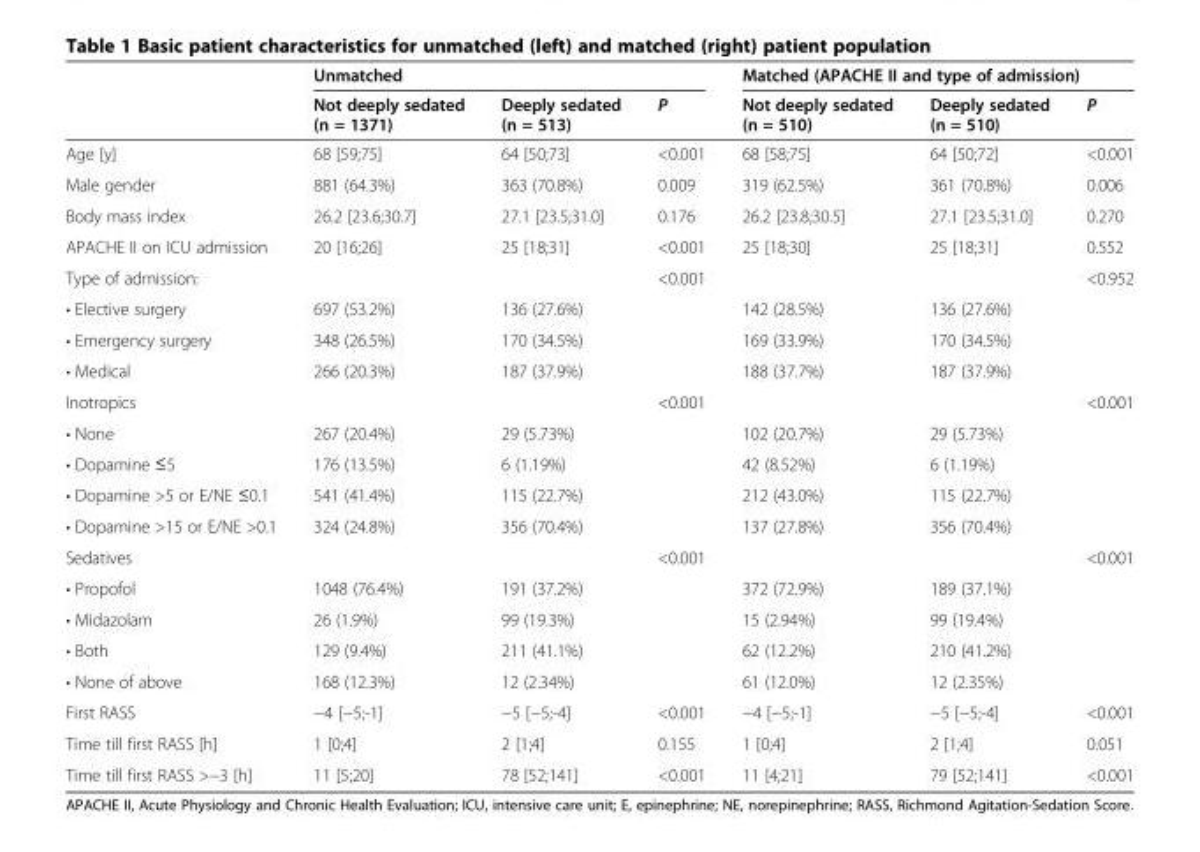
<table><thead><tr><td rowspan="2"></td><td colspan="3">Unmatched</td><td colspan="3">Matched (APACHE II and type of admission)</td></tr><tr><td>Not deeply sedated (n = 1371)</td><td>Deeply sedated (n = 513)</td><td>P</td><td>Not deeply sedated (n = 510)</td><td>Deeply sedated (n = 510)</td><td>P</td></tr></thead><tbody><tr><td>Age [y]</td><td>68 [59;75]</td><td>64 [50;73]</td><td>&lt;0.001</td><td>68 [58;75]</td><td>64 [50;72]</td><td>&lt;0.001</td></tr><tr><td>Male gender</td><td>881 (64.3%)</td><td>363 (70.8%)</td><td>0.009</td><td>319 (62.5%)</td><td>361 (70.8%)</td><td>0.006</td></tr><tr><td>Body mass index</td><td>26.2 [23.6;30.7]</td><td>27.1 [23.5;31.0]</td><td>0.176</td><td>26.2 [23.8;30.5]</td><td>27.1 [23.5;31.0]</td><td>0.270</td></tr><tr><td>APACHE II on ICU admission</td><td>20 [16;26]</td><td>25 [18;31]</td><td>&lt;0.001</td><td>25 [18;30]</td><td>25 [18;31]</td><td>0.552</td></tr><tr><td>Type of admission:</td><td></td><td></td><td>&lt;0.001</td><td></td><td></td><td>&lt;0.952</td></tr><tr><td>• Elective surgery</td><td>697 (53.2%)</td><td>136 (27.6%)</td><td></td><td>142 (28.5%)</td><td>136 (27.6%)</td><td></td></tr><tr><td>• Emergency surgery</td><td>348 (26.5%)</td><td>170 (34.5%)</td><td></td><td>169 (33.9%)</td><td>170 (34.5%)</td><td></td></tr><tr><td>• Medical</td><td>266 (20.3%)</td><td>187 (37.9%)</td><td></td><td>188 (37.7%)</td><td>187 (37.9%)</td><td></td></tr><tr><td>Inotropics</td><td></td><td></td><td>&lt;0.001</td><td></td><td></td><td>&lt;0.001</td></tr><tr><td>• None</td><td>267 (20.4%)</td><td>29 (5.73%)</td><td></td><td>102 (20.7%)</td><td>29 (5.73%)</td><td></td></tr><tr><td>• Dopamine ≤5</td><td>176 (13.5%)</td><td>6 (1.19%)</td><td></td><td>42 (8.52%)</td><td>6 (1.19%)</td><td></td></tr><tr><td>• Dopamine &gt;5 or E/NE ≤0.1</td><td>541 (41.4%)</td><td>115 (22.7%)</td><td></td><td>212 (43.0%)</td><td>115 (22.7%)</td><td></td></tr><tr><td>• Dopamine &gt;15 or E/NE &gt;0.1</td><td>324 (24.8%)</td><td>356 (70.4%)</td><td></td><td>137 (27.8%)</td><td>356 (70.4%)</td><td></td></tr><tr><td>Sedatives</td><td></td><td></td><td>&lt;0.001</td><td></td><td></td><td>&lt;0.001</td></tr><tr><td>• Propofol</td><td>1048 (76.4%)</td><td>191 (37.2%)</td><td></td><td>372 (72.9%)</td><td>189 (37.1%)</td><td></td></tr><tr><td>• Midazolam</td><td>26 (1.9%)</td><td>99 (19.3%)</td><td></td><td>15 (2.94%)</td><td>99 (19.4%)</td><td></td></tr><tr><td>• Both</td><td>129 (9.4%)</td><td>211 (41.1%)</td><td></td><td>62 (12.2%)</td><td>210 (41.2%)</td><td></td></tr><tr><td>• None of above</td><td>168 (12.3%)</td><td>12 (2.34%)</td><td></td><td>61 (12.0%)</td><td>12 (2.35%)</td><td></td></tr><tr><td>First RASS</td><td>−4 [−5;-1]</td><td>−5 [−5;-4]</td><td>&lt;0.001</td><td>−4 [−5;-1]</td><td>−5 [−5;-4]</td><td>&lt;0.001</td></tr><tr><td>Time till first RASS [h]</td><td>1 [0;4]</td><td>2 [1;4]</td><td>0.155</td><td>1 [0;4]</td><td>2 [1;4]</td><td>0.051</td></tr><tr><td>Time till first RASS &gt;−3 [h]</td><td>11 [5;20]</td><td>78 [52;141]</td><td>&lt;0.001</td><td>11 [4;21]</td><td>79 [52;141]</td><td>&lt;0.001</td></tr></tbody></table>